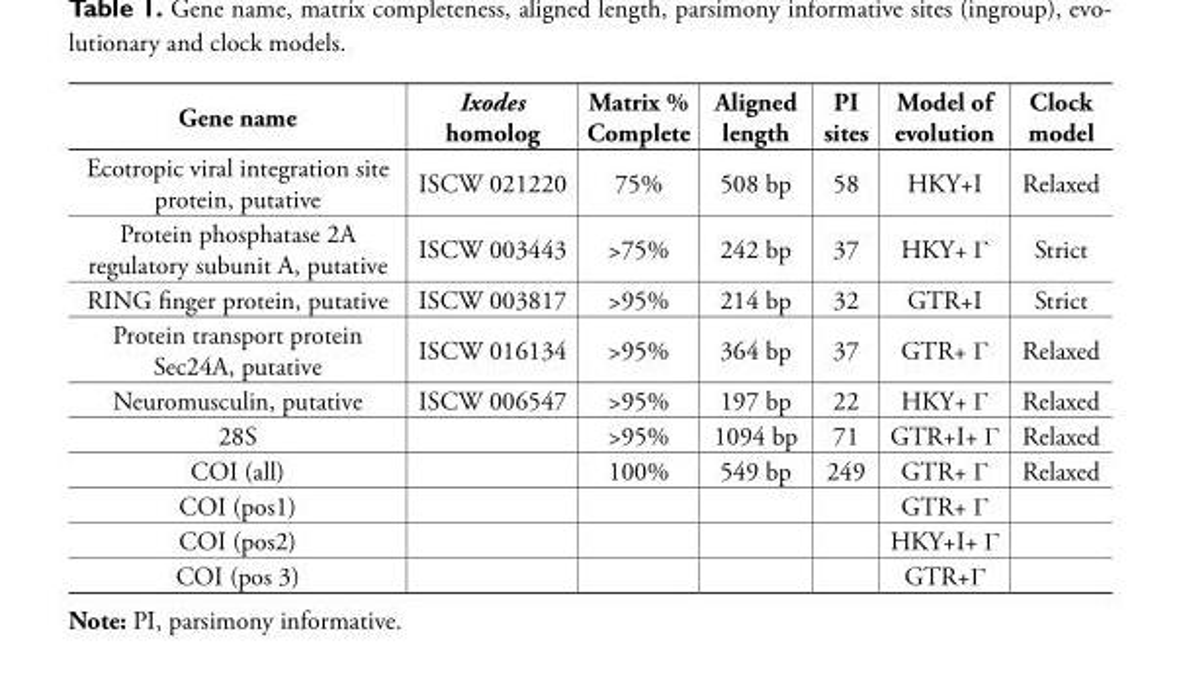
<table><thead><tr><td>Gene name</td><td>Ixodes homolog</td><td>Matrix % Complete</td><td>Aligned length</td><td>PI sites</td><td>Model of evolution</td><td>Clock model</td></tr></thead><tbody><tr><td>Ecotropic viral integration site protein, putative</td><td>ISCW 021220</td><td>75%</td><td>508 bp</td><td>58</td><td>HKY+I</td><td>Relaxed</td></tr><tr><td>Protein phosphatase 2A regulatory subunit A, putative</td><td>ISCW 003443</td><td>&gt;75%</td><td>242 bp</td><td>37</td><td>HKY+ Γ</td><td>Strict</td></tr><tr><td>RING finger protein, putative</td><td>ISCW 003817</td><td>&gt;95%</td><td>214 bp</td><td>32</td><td>GTR+I</td><td>Strict</td></tr><tr><td>Protein transport protein Sec24A, putative</td><td>ISCW 016134</td><td>&gt;95%</td><td>364 bp</td><td>37</td><td>GTR+ Γ</td><td>Relaxed</td></tr><tr><td>Neuromusculin, putative</td><td>ISCW 006547</td><td>&gt;95%</td><td>197 bp</td><td>22</td><td>HKY+ Γ</td><td>Relaxed</td></tr><tr><td>28S</td><td></td><td>&gt;95%</td><td>1094 bp</td><td>71</td><td>GTR+I+ Γ</td><td>Relaxed</td></tr><tr><td>COI (all)</td><td></td><td>100%</td><td>549 bp</td><td>249</td><td>GTR+ Γ</td><td>Relaxed</td></tr><tr><td>COI (pos1)</td><td></td><td></td><td></td><td></td><td>GTR+ Γ</td><td></td></tr><tr><td>COI (pos2)</td><td></td><td></td><td></td><td></td><td>HKY+I+ Γ</td><td></td></tr><tr><td>COI (pos 3)</td><td></td><td></td><td></td><td></td><td>GTR+Γ</td><td></td></tr></tbody></table>